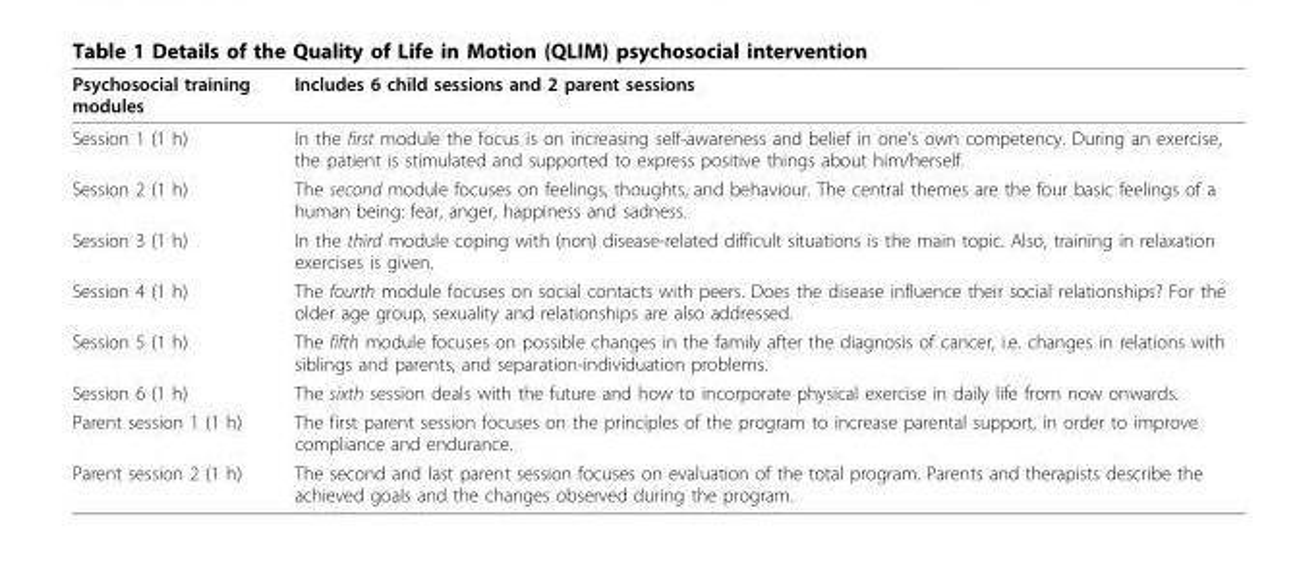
<table><thead><tr><td>Psychosocial training modules</td><td>Includes 6 child sessions and 2 parent sessions</td></tr></thead><tbody><tr><td>Session 1 (1 h)</td><td>In the first module the focus is on increasing self-awareness and belief in one’s own competency. During an exercise, the patient is stimulated and supported to express positive things about him/herself.</td></tr><tr><td>Session 2 (1 h)</td><td>The second module focuses on feelings, thoughts, and behaviour. The central themes are the four basic feelings of a human being: fear, anger, happiness and sadness.</td></tr><tr><td>Session 3 (1 h)</td><td>In the third module coping with (non) disease-related difficult situations is the main topic. Also, training in relaxation exercises is given.</td></tr><tr><td>Session 4 (1 h)</td><td>The fourth module focuses on social contacts with peers. Does the disease influence their social relationships? For the older age group, sexuality and relationships are also addressed.</td></tr><tr><td>Session 5 (1 h)</td><td>The fifth module focuses on possible changes in the family after the diagnosis of cancer, i.e. changes in relations with siblings and parents, and separation-individuation problems.</td></tr><tr><td>Session 6 (1 h)</td><td>The sixth session deals with the future and how to incorporate physical exercise in daily life from now onwards.</td></tr><tr><td>Parent session 1 (1 h)</td><td>The first parent session focuses on the principles of the program to increase parental support, in order to improve compliance and endurance.</td></tr><tr><td>Parent session 2 (1 h)</td><td>The second and last parent session focuses on evaluation of the total program. Parents and therapists describe the achieved goals and the changes observed during the program.</td></tr></tbody></table>